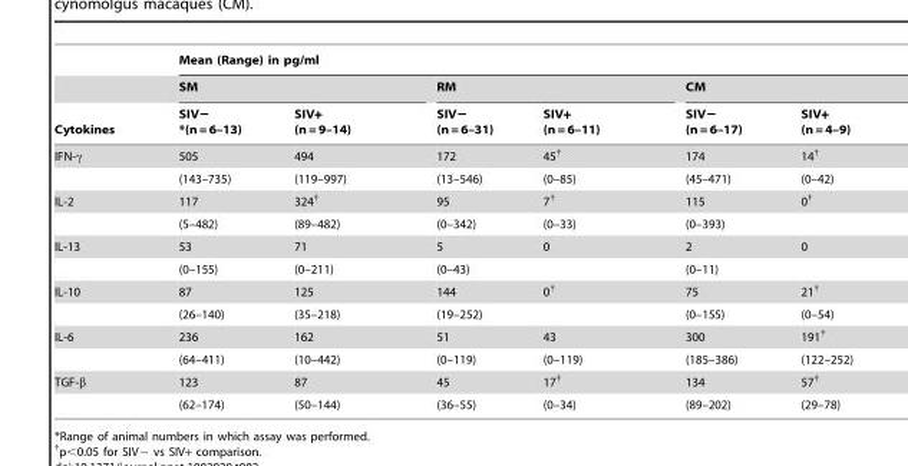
<table><thead><tr><td rowspan="3">Cytokines</td><td colspan="6">Mean (Range) in pg/ml</td></tr><tr><td colspan="2">SM</td><td colspan="2">RM</td><td colspan="2">CM</td></tr><tr><td>SIV− *(n = 6–13)</td><td>SIV+ (n = 9–14)</td><td>SIV− (n = 6–31)</td><td>SIV+ (n = 6–11)</td><td>SIV− (n = 6–17)</td><td>SIV+ (n = 4–9)</td></tr></thead><tbody><tr><td rowspan="2">IFN-γ</td><td>505</td><td>494</td><td>172</td><td>45†</td><td>174</td><td>14†</td></tr><tr><td>(143–735)</td><td>(119–997)</td><td>(13–546)</td><td>(0–85)</td><td>(45–471)</td><td>(0–42)</td></tr><tr><td rowspan="2">IL-2</td><td>117</td><td>324†</td><td>95</td><td>7†</td><td>115</td><td>0†</td></tr><tr><td>(5–482)</td><td>(89–482)</td><td>(0–342)</td><td>(0–33)</td><td>(0–393)</td><td></td></tr><tr><td rowspan="2">IL-13</td><td>53</td><td>71</td><td>5</td><td>0</td><td>2</td><td>0</td></tr><tr><td>(0–155)</td><td>(0–211)</td><td>(0–43)</td><td></td><td>(0–11)</td><td></td></tr><tr><td rowspan="2">IL-10</td><td>87</td><td>125</td><td>144</td><td>0†</td><td>75</td><td>21†</td></tr><tr><td>(26–140)</td><td>(35–218)</td><td>(19–252)</td><td></td><td>(0–155)</td><td>(0–54)</td></tr><tr><td rowspan="2">IL-6</td><td>236</td><td>162</td><td>51</td><td>43</td><td>300</td><td>191†</td></tr><tr><td>(64–411)</td><td>(10–442)</td><td>(0–119)</td><td>(0–119)</td><td>(185–386)</td><td>(122–252)</td></tr><tr><td rowspan="2">TGF-β</td><td>123</td><td>87</td><td>45</td><td>17†</td><td>134</td><td>57†</td></tr><tr><td>(62–174)</td><td>(50–144)</td><td>(36–55)</td><td>(0–34)</td><td>(89–202)</td><td>(29–78)</td></tr></tbody></table>